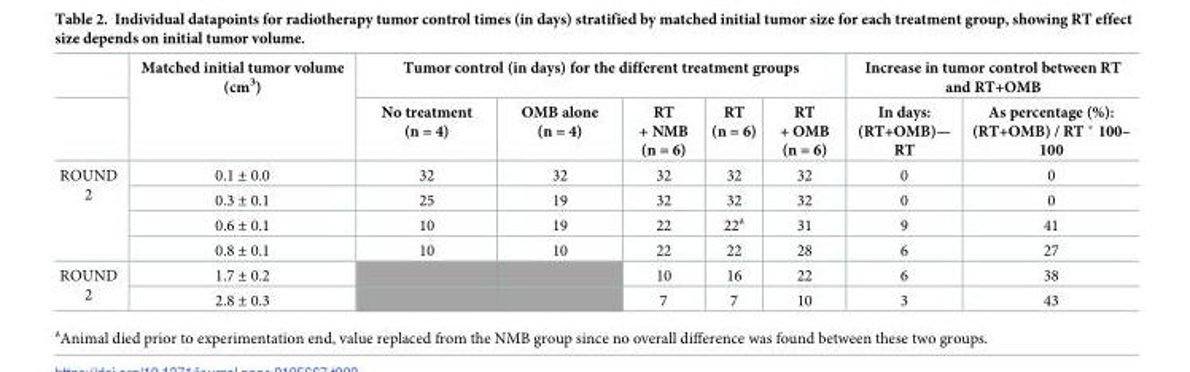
<table><thead><tr><td rowspan="2"></td><td rowspan="2">Matched initial tumor volume (cm<sup>3</sup>)</td><td colspan="5">Tumor control (in days) for the different treatment groups</td><td colspan="2">Increase in tumor control between RT and RT+OMB</td></tr><tr><td>No treatment (n = 4)</td><td>OMB alone (n = 4)</td><td>RT + NMB (n = 6)</td><td>RT (n = 6)</td><td>RT + OMB (n = 6)</td><td>In days: (RT+OMB)— RT</td><td>As percentage (%): (RT+OMB) / RT * 100– 100</td></tr></thead><tbody><tr><td rowspan="4">ROUND 2</td><td>0.1 ± 0.0</td><td>32</td><td>32</td><td>32</td><td>32</td><td>32</td><td>0</td><td>0</td></tr><tr><td>0.3 ± 0.1</td><td>25</td><td>19</td><td>32</td><td>32</td><td>32</td><td>0</td><td>0</td></tr><tr><td>0.6 ± 0.1</td><td>10</td><td>19</td><td>22</td><td>22<sup>a</sup></td><td>31</td><td>9</td><td>41</td></tr><tr><td>0.8 ± 0.1</td><td>10</td><td>10</td><td>22</td><td>22</td><td>28</td><td>6</td><td>27</td></tr><tr><td rowspan="2">ROUND 2</td><td>1.7 ± 0.2</td><td></td><td></td><td>10</td><td>16</td><td>22</td><td>6</td><td>38</td></tr><tr><td>2.8 ± 0.3</td><td></td><td></td><td>7</td><td>7</td><td>10</td><td>3</td><td>43</td></tr></tbody></table>